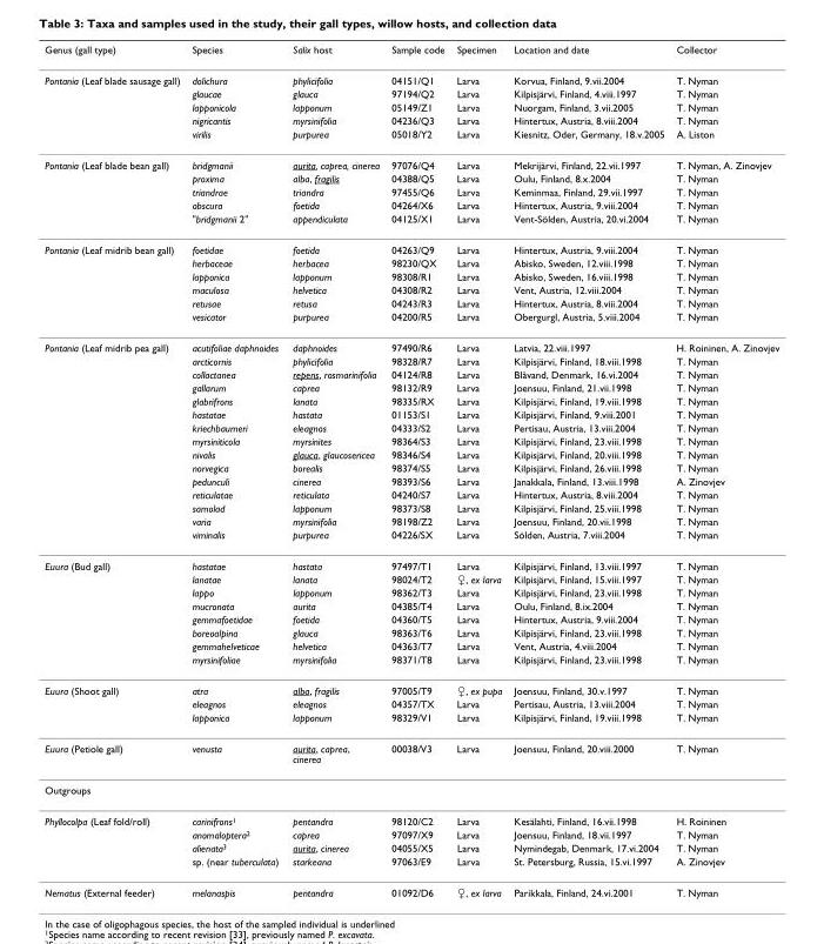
<table><thead><tr><td>Genus (gall type)</td><td>Species</td><td>Salix host</td><td>Sample code</td><td>Specimen</td><td>Location and date</td><td>Collector</td></tr></thead><tbody><tr><td rowspan="5">Pontania (Leaf blade sausage gall)</td><td>dolichura</td><td>phylicifolia</td><td>04151/Q1</td><td>Larva</td><td>Korvua, Finland, 9.vii.2004</td><td>T. Nyman</td></tr><tr><td>glaucae</td><td>glauca</td><td>97194/Q2</td><td>Larva</td><td>Kilpisjärvi, Finland, 4.viii.1997</td><td>T. Nyman</td></tr><tr><td>lapponicola</td><td>lapponum</td><td>05149/Z1</td><td>Larva</td><td>Nuorgam, Finland, 3.vii.2005</td><td>T. Nyman</td></tr><tr><td>nigricantis</td><td>myrsinifolia</td><td>04236/Q3</td><td>Larva</td><td>Hintertux, Austria, 8.viii.2004</td><td>T. Nyman</td></tr><tr><td>virilis</td><td>purpurea</td><td>05018/Y2</td><td>Larva</td><td>Kiesnitz, Oder, Germany, 18.v.2005</td><td>A. Liston</td></tr><tr><td rowspan="5">Pontania (Leaf blade bean gall)</td><td>bridgmanii</td><td>aurita, caprea, cinerea</td><td>97076/Q4</td><td>Larva</td><td>Mekrijärvi, Finland, 22.vii.1997</td><td>T. Nyman, A. Zinovjev</td></tr><tr><td>proxima</td><td>alba, fragilis</td><td>04388/Q5</td><td>Larva</td><td>Oulu, Finland, 8.x.2004</td><td>T. Nyman</td></tr><tr><td>triandrae</td><td>triandra</td><td>97455/Q6</td><td>Larva</td><td>Keminmaa, Finland, 29.vii.1997</td><td>T. Nyman</td></tr><tr><td>obscura</td><td>foetida</td><td>04264/X6</td><td>Larva</td><td>Hintertux, Austria, 9.viii.2004</td><td>T. Nyman</td></tr><tr><td>&quot;bridgmanii 2&quot;</td><td>appendiculata</td><td>04125/X1</td><td>Larva</td><td>Vent-Sölden, Austria, 20.vi.2004</td><td>T. Nyman</td></tr><tr><td rowspan="6">Pontania (Leaf midrib bean gall)</td><td>foetidae</td><td>foetida</td><td>04263/Q9</td><td>Larva</td><td>Hintertux, Austria, 9.viii.2004</td><td>T. Nyman</td></tr><tr><td>herbaceae</td><td>herbacea</td><td>98230/QX</td><td>Larva</td><td>Abisko, Sweden, 12.viii.1998</td><td>T. Nyman</td></tr><tr><td>lapponica</td><td>lapponum</td><td>98308/R1</td><td>Larva</td><td>Abisko, Sweden, 16.viii.1998</td><td>T. Nyman</td></tr><tr><td>maculosa</td><td>helvetica</td><td>04308/R2</td><td>Larva</td><td>Vent, Austria, 12.viii.2004</td><td>T. Nyman</td></tr><tr><td>retusae</td><td>retusa</td><td>04243/R3</td><td>Larva</td><td>Hintertux, Austria, 8.viii.2004</td><td>T. Nyman</td></tr><tr><td>vesicator</td><td>purpurea</td><td>04200/R5</td><td>Larva</td><td>Obergurgl, Austria, 5.viii.2004</td><td>T. Nyman</td></tr><tr><td rowspan="15">Pontania (Leaf midrib pea gall)</td><td>acutifoliae daphnoides</td><td>daphnoides</td><td>97490/R6</td><td>Larva</td><td>Latvia, 22.viii.1997</td><td>H. Roininen, A. Zinovjev</td></tr><tr><td>arcticornis</td><td>phylicifolia</td><td>98328/R7</td><td>Larva</td><td>Kilpisjärvi, Finland, 18.viii.1998</td><td>T. Nyman</td></tr><tr><td>collactanea</td><td>repens, rosmarinifolia</td><td>04124/R8</td><td>Larva</td><td>Blåvand, Denmark, 16.vi.2004</td><td>T. Nyman</td></tr><tr><td>gallarum</td><td>caprea</td><td>98132/R9</td><td>Larva</td><td>Joensuu, Finland, 21.vii.1998</td><td>T. Nyman</td></tr><tr><td>glabrifrons</td><td>lanata</td><td>98335/RX</td><td>Larva</td><td>Kilpisjärvi, Finland, 19.viii.1998</td><td>T. Nyman</td></tr><tr><td>hastatae</td><td>hastata</td><td>01153/S1</td><td>Larva</td><td>Kilpisjärvi, Finland, 9.viii.2001</td><td>T. Nyman</td></tr><tr><td>kriechbaumeri</td><td>eleagnos</td><td>04333/S2</td><td>Larva</td><td>Pertisau, Austria, 13.viii.2004</td><td>T. Nyman</td></tr><tr><td>myrsiniticola</td><td>myrsinites</td><td>98364/S3</td><td>Larva</td><td>Kilpisjärvi, Finland, 23.viii.1998</td><td>T. Nyman</td></tr><tr><td>nivalis</td><td>glauca, glaucosericea</td><td>98346/S4</td><td>Larva</td><td>Kilpisjärvi, Finland, 20.viii.1998</td><td>T. Nyman</td></tr><tr><td>norvegica</td><td>borealis</td><td>98374/S5</td><td>Larva</td><td>Kilpisjärvi, Finland, 26.viii.1998</td><td>T. Nyman</td></tr><tr><td>pedunculi</td><td>cinerea</td><td>98393/S6</td><td>Larva</td><td>Janakkala, Finland, 13.viii.1998</td><td>A. Zinovjev</td></tr><tr><td>reticulatae</td><td>reticulata</td><td>04240/S7</td><td>Larva</td><td>Hintertux, Austria, 8.viii.2004</td><td>T. Nyman</td></tr><tr><td>samolad</td><td>lapponum</td><td>98373/S8</td><td>Larva</td><td>Kilpisjärvi, Finland, 25.viii.1998</td><td>T. Nyman</td></tr><tr><td>varia</td><td>myrsinifolia</td><td>98198/Z2</td><td>Larva</td><td>Joensuu, Finland, 20.vii.1998</td><td>T. Nyman</td></tr><tr><td>viminalis</td><td>purpurea</td><td>04226/SX</td><td>Larva</td><td>Sölden, Austria, 7.viii.2004</td><td>T. Nyman</td></tr><tr><td rowspan="8">Euura (Bud gall)</td><td>hastatae</td><td>hastata</td><td>97497/T1</td><td>Larva</td><td>Kilpisjärvi, Finland, 13.viii.1997</td><td>T. Nyman</td></tr><tr><td>lanatae</td><td>lanata</td><td>98024/T2</td><td>♀, ex larva</td><td>Kilpisjärvi, Finland, 15.viii.1997</td><td>T. Nyman</td></tr><tr><td>lappo</td><td>lapponum</td><td>98362/T3</td><td>Larva</td><td>Kilpisjärvi, Finland, 23.viii.1998</td><td>T. Nyman</td></tr><tr><td>mucronata</td><td>aurita</td><td>04385/T4</td><td>Larva</td><td>Oulu, Finland, 8.ix.2004</td><td>T. Nyman</td></tr><tr><td>gemmafoetidae</td><td>foetida</td><td>04360/T5</td><td>Larva</td><td>Hintertux, Austria, 9.viii.2004</td><td>T. Nyman</td></tr><tr><td>boreoalpina</td><td>glauca</td><td>98363/T6</td><td>Larva</td><td>Kilpisjärvi, Finland, 23.viii.1998</td><td>T. Nyman</td></tr><tr><td>gemmahelveticae</td><td>helvetica</td><td>04363/T7</td><td>Larva</td><td>Vent, Austria, 4.viii.2004</td><td>T. Nyman</td></tr><tr><td>myrsinifoliae</td><td>myrsinifolia</td><td>98371/T8</td><td>Larva</td><td>Kilpisjärvi, Finland, 23.viii.1998</td><td>T. Nyman</td></tr><tr><td rowspan="3">Euura (Shoot gall)</td><td>atra</td><td>alba, fragilis</td><td>97005/T9</td><td>♀, ex pupa</td><td>Joensuu, Finland, 30.v.1997</td><td>T. Nyman</td></tr><tr><td>eleagnos</td><td>eleagnos</td><td>04357/TX</td><td>Larva</td><td>Pertisau, Austria, 13.viii.2004</td><td>T. Nyman</td></tr><tr><td>lapponica</td><td>lapponum</td><td>98329/V1</td><td>Larva</td><td>Kilpisjärvi, Finland, 19.viii.1998</td><td>T. Nyman</td></tr><tr><td>Euura (Petiole gall)</td><td>venusta</td><td>aurita, caprea, cinerea</td><td>00038/V3</td><td>Larva</td><td>Joensuu, Finland, 20.viii.2000</td><td>T. Nyman</td></tr><tr><td colspan="7">Outgroups</td></tr><tr><td rowspan="4">Phyllocolpa (Leaf fold/roll)</td><td>carinifrons<sup>1</sup></td><td>pentandra</td><td>98120/C2</td><td>Larva</td><td>Kesälahti, Finland, 16.vii.1998</td><td>H. Roininen</td></tr><tr><td>anomaloptera<sup>2</sup></td><td>caprea</td><td>97097/X9</td><td>Larva</td><td>Joensuu, Finland, 18.vii.1997</td><td>T. Nyman</td></tr><tr><td>alienata<sup>3</sup></td><td>aurita, cinerea</td><td>04055/X5</td><td>Larva</td><td>Nymindegab, Denmark, 17.vi.2004</td><td>T. Nyman</td></tr><tr><td>sp. (near tuberculata)</td><td>starkeana</td><td>97063/E9</td><td>Larva</td><td>St. Petersburg, Russia, 15.vi.1997</td><td>A. Zinovjev</td></tr><tr><td>Nematus (External feeder)</td><td>melanaspis</td><td>pentandra</td><td>01092/D6</td><td>♀, ex larva</td><td>Parikkala, Finland, 24.vi.2001</td><td>T. Nyman</td></tr></tbody></table>